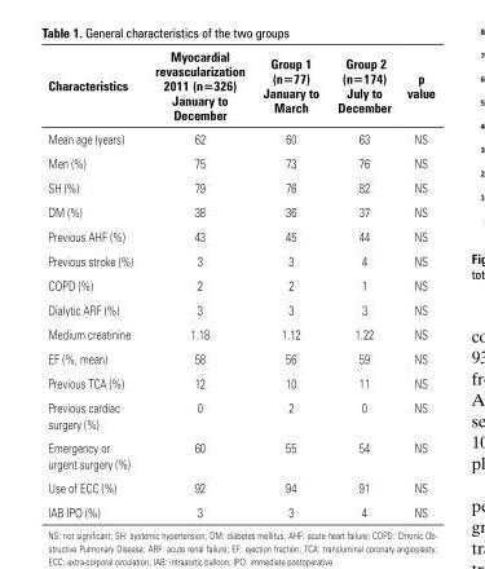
<table><thead><tr><td>Characteristics</td><td>Myocardial revascularization 2011 (n=326) January to December</td><td>Group 1 (n=77) January to March</td><td>Group 2 (n=174) July to December</td><td>p value</td></tr></thead><tbody><tr><td>Mean age (years)</td><td>62</td><td>60</td><td>63</td><td>NS</td></tr><tr><td>Men (%)</td><td>75</td><td>73</td><td>76</td><td>NS</td></tr><tr><td>SH (%)</td><td>79</td><td>76</td><td>82</td><td>NS</td></tr><tr><td>DM (%)</td><td>38</td><td>36</td><td>37</td><td>NS</td></tr><tr><td>Previous AHF (%)</td><td>43</td><td>45</td><td>44</td><td>NS</td></tr><tr><td>Previous stroke (%)</td><td>3</td><td>3</td><td>4</td><td>NS</td></tr><tr><td>COPD (%)</td><td>2</td><td>2</td><td>1</td><td>NS</td></tr><tr><td>Dialytic ARF (%)</td><td>3</td><td>3</td><td>3</td><td>NS</td></tr><tr><td>Medium creatinine</td><td>1.18</td><td>1.12</td><td>1.22</td><td>NS</td></tr><tr><td>EF (%, mean)</td><td>58</td><td>56</td><td>59</td><td>NS</td></tr><tr><td>Previous TCA (%)</td><td>12</td><td>10</td><td>11</td><td>NS</td></tr><tr><td>Previous cardiac surgery (%)</td><td>0</td><td>2</td><td>0</td><td>NS</td></tr><tr><td>Emergency or urgent surgery (%)</td><td>60</td><td>55</td><td>54</td><td>NS</td></tr><tr><td>Use of ECC (%)</td><td>92</td><td>94</td><td>91</td><td>NS</td></tr><tr><td>IAB IPO (%)</td><td>3</td><td>3</td><td>4</td><td>NS</td></tr></tbody></table>